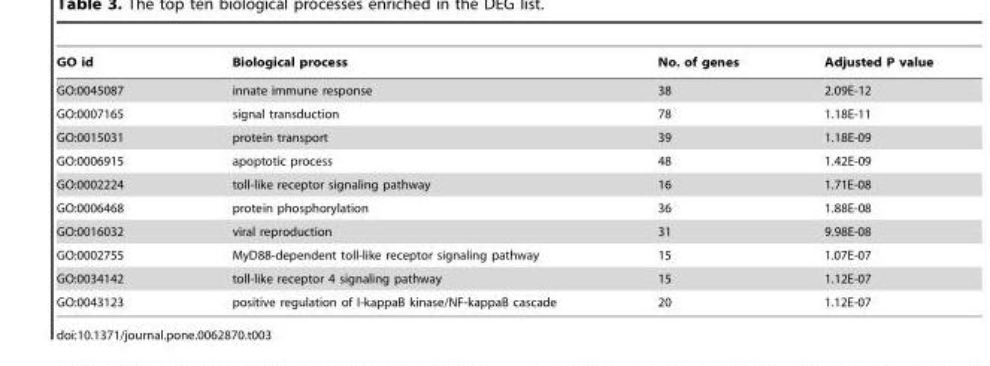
<table><thead><tr><td>GO id</td><td>Biological process</td><td>No. of genes</td><td>Adjusted P value</td></tr></thead><tbody><tr><td>GO:0045087</td><td>innate immune response</td><td>38</td><td>2.09E-12</td></tr><tr><td>GO:0007165</td><td>signal transduction</td><td>78</td><td>1.18E-11</td></tr><tr><td>GO:0015031</td><td>protein transport</td><td>39</td><td>1.18E-09</td></tr><tr><td>GO:0006915</td><td>apoptotic process</td><td>48</td><td>1.42E-09</td></tr><tr><td>GO:0002224</td><td>toll-like receptor signaling pathway</td><td>16</td><td>1.71E-08</td></tr><tr><td>GO:0006468</td><td>protein phosphorylation</td><td>36</td><td>1.88E-08</td></tr><tr><td>GO:0016032</td><td>viral reproduction</td><td>31</td><td>9.98E-08</td></tr><tr><td>GO:0002755</td><td>MyD88-dependent toll-like receptor signaling pathway</td><td>15</td><td>1.07E-07</td></tr><tr><td>GO:0034142</td><td>toll-like receptor 4 signaling pathway</td><td>15</td><td>1.12E-07</td></tr><tr><td>GO:0043123</td><td>positive regulation of I-kappaB kinase/NF-kappaB cascade</td><td>20</td><td>1.12E-07</td></tr></tbody></table>